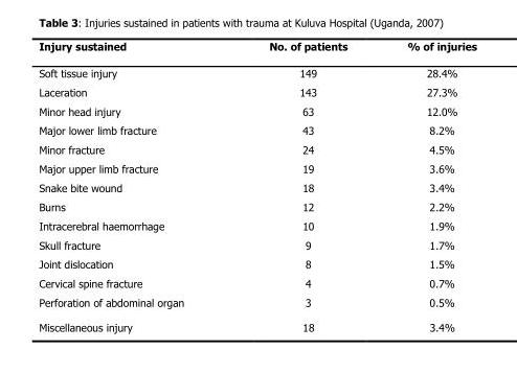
<table><thead><tr><td>Injury sustained</td><td>No. of patients</td><td>% of injuries</td></tr></thead><tbody><tr><td>Soft tissue injury</td><td>149</td><td>28.4%</td></tr><tr><td>Laceration</td><td>143</td><td>27.3%</td></tr><tr><td>Minor head injury</td><td>63</td><td>12.0%</td></tr><tr><td>Major lower limb fracture</td><td>43</td><td>8.2%</td></tr><tr><td>Minor fracture</td><td>24</td><td>4.5%</td></tr><tr><td>Major upper limb fracture</td><td>19</td><td>3.6%</td></tr><tr><td>Snake bite wound</td><td>18</td><td>3.4%</td></tr><tr><td>Burns</td><td>12</td><td>2.2%</td></tr><tr><td>Intracerebral haemorrhage</td><td>10</td><td>1.9%</td></tr><tr><td>Skull fracture</td><td>9</td><td>1.7%</td></tr><tr><td>Joint dislocation</td><td>8</td><td>1.5%</td></tr><tr><td>Cervical spine fracture</td><td>4</td><td>0.7%</td></tr><tr><td>Perforation of abdominal organ</td><td>3</td><td>0.5%</td></tr><tr><td>Miscellaneous injury</td><td>18</td><td>3.4%</td></tr></tbody></table>